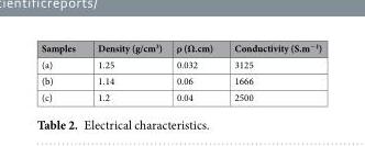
<table><thead><tr><td>Samples</td><td>Density (g/cm<sup>3</sup>)</td><td>ρ (Ω.cm)</td><td>Conductivity (S.m<sup>−1</sup>)</td></tr></thead><tbody><tr><td>(a)</td><td>1.25</td><td>0.032</td><td>3125</td></tr><tr><td>(b)</td><td>1.14</td><td>0.06</td><td>1666</td></tr><tr><td>(c)</td><td>1.2</td><td>0.04</td><td>2500</td></tr></tbody></table>